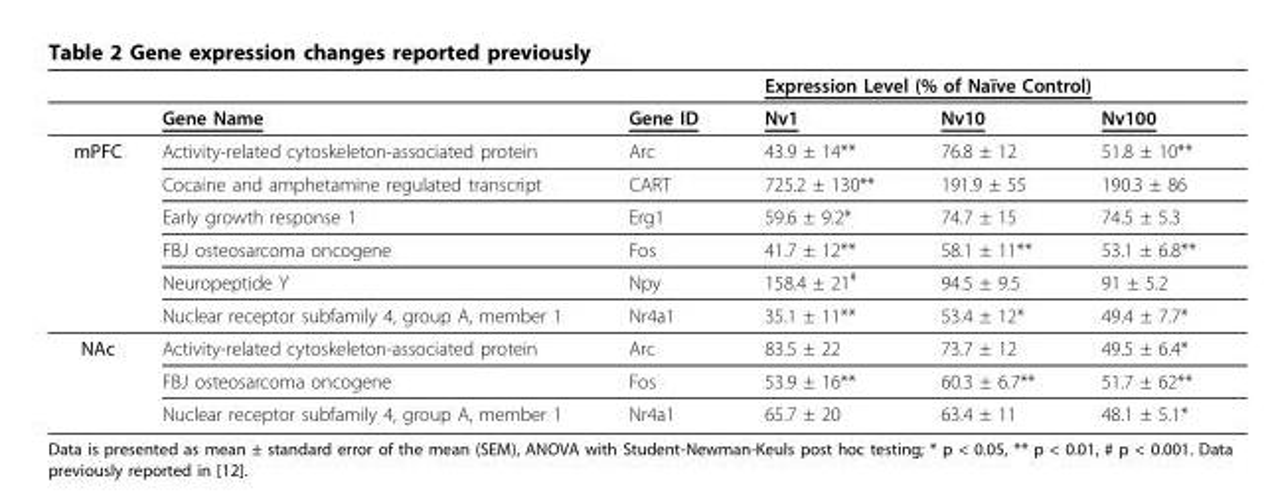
<table><thead><tr><td rowspan="2"></td><td rowspan="2">Gene Name</td><td rowspan="2">Gene ID</td><td colspan="3">Expression Level (% of Naïve Control)</td></tr><tr><td>Nv1</td><td>Nv10</td><td>Nv100</td></tr></thead><tbody><tr><td rowspan="6">mPFC</td><td>Activity-related cytoskeleton-associated protein</td><td>Arc</td><td>43.9 ± 14**</td><td>76.8 ± 12</td><td>51.8 ± 10**</td></tr><tr><td>Cocaine and amphetamine regulated transcript</td><td>CART</td><td>725.2 ± 130**</td><td>191.9 ± 55</td><td>190.3 ± 86</td></tr><tr><td>Early growth response 1</td><td>Erg1</td><td>59.6 ± 9.2*</td><td>74.7 ± 15</td><td>74.5 ± 5.3</td></tr><tr><td>FBJ osteosarcoma oncogene</td><td>Fos</td><td>41.7 ± 12**</td><td>58.1 ± 11**</td><td>53.1 ± 6.8**</td></tr><tr><td>Neuropeptide Y</td><td>Npy</td><td>158.4 ± 21<sup>#</sup></td><td>94.5 ± 9.5</td><td>91 ± 5.2</td></tr><tr><td>Nuclear receptor subfamily 4, group A, member 1</td><td>Nr4a1</td><td>35.1 ± 11**</td><td>53.4 ± 12*</td><td>49.4 ± 7.7*</td></tr><tr><td rowspan="3">NAc</td><td>Activity-related cytoskeleton-associated protein</td><td>Arc</td><td>83.5 ± 22</td><td>73.7 ± 12</td><td>49.5 ± 6.4*</td></tr><tr><td>FBJ osteosarcoma oncogene</td><td>Fos</td><td>53.9 ± 16**</td><td>60.3 ± 6.7**</td><td>51.7 ± 62**</td></tr><tr><td>Nuclear receptor subfamily 4, group A, member 1</td><td>Nr4a1</td><td>65.7 ± 20</td><td>63.4 ± 11</td><td>48.1 ± 5.1*</td></tr></tbody></table>